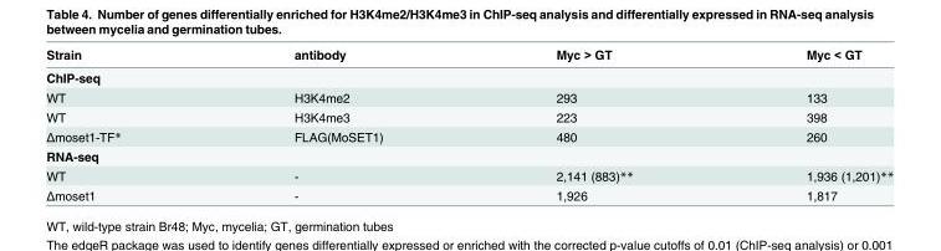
<table><thead><tr><td>Strain</td><td>antibody</td><td>Myc &gt; GT</td><td>Myc &lt; GT</td></tr></thead><tbody><tr><td colspan="4">ChIP-seq</td></tr><tr><td>WT</td><td>H3K4me2</td><td>293</td><td>133</td></tr><tr><td>WT</td><td>H3K4me3</td><td>223</td><td>398</td></tr><tr><td>Δmoset1-TF*</td><td>FLAG(MoSET1)</td><td>480</td><td>260</td></tr><tr><td colspan="4">RNA-seq</td></tr><tr><td>WT</td><td>-</td><td>2,141 (883)**</td><td>1,936 (1,201)**</td></tr><tr><td>Δmoset1</td><td>-</td><td>1,926</td><td>1,817</td></tr></tbody></table>